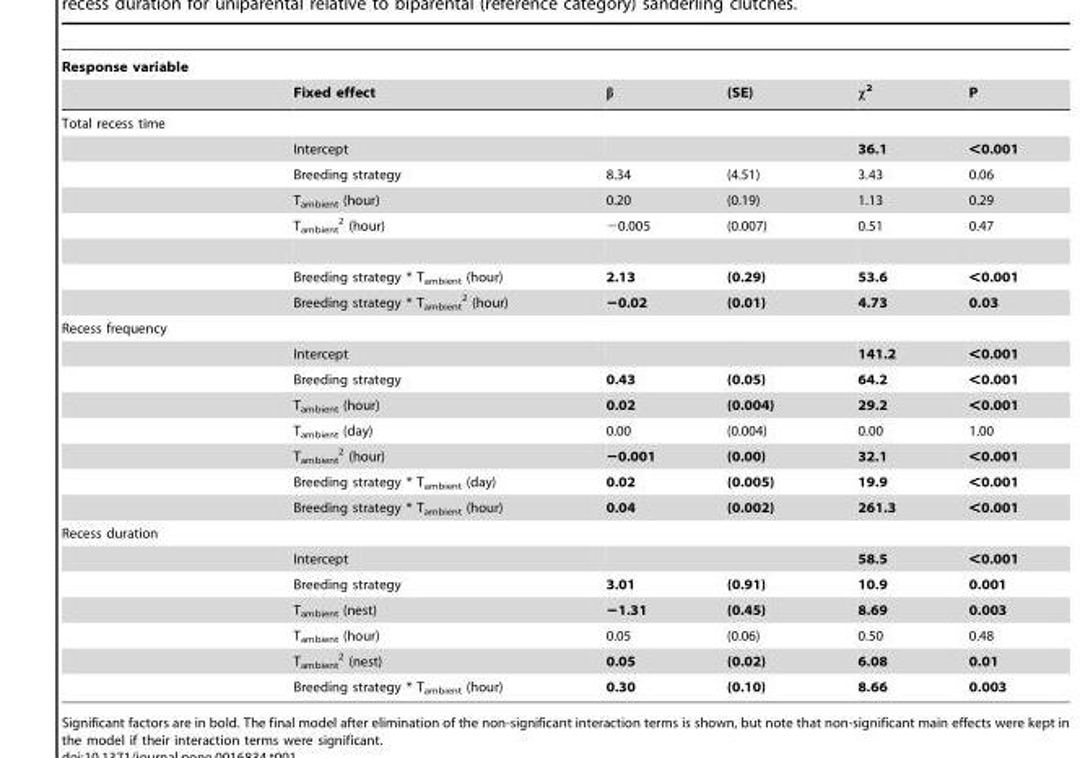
<table><thead><tr><td rowspan="2">Response variable</td><td rowspan="2">Fixed effect</td><td rowspan="2">β</td><td rowspan="2">(SE)</td><td rowspan="2">χ<sup>2</sup></td><td rowspan="2">P</td></tr><tr></tr></thead><tbody><tr><td colspan="6">Total recess time</td></tr><tr><td></td><td>Intercept</td><td></td><td></td><td>36.1</td><td>&lt;0.001</td></tr><tr><td></td><td>Breeding strategy</td><td>8.34</td><td>(4.51)</td><td>3.43</td><td>0.06</td></tr><tr><td></td><td>T<sub>ambient</sub> (hour)</td><td>0.20</td><td>(0.19)</td><td>1.13</td><td>0.29</td></tr><tr><td></td><td>T<sub>ambient</sub> <sup>2</sup> (hour)</td><td>−0.005</td><td>(0.007)</td><td>0.51</td><td>0.47</td></tr><tr><td></td><td>Breeding strategy * T<sub>ambient</sub> (hour)</td><td>2.13</td><td>(0.29)</td><td>53.6</td><td>&lt;0.001</td></tr><tr><td></td><td>Breeding strategy * T<sub>ambient</sub> <sup>2</sup> (hour)</td><td>−0.02</td><td>(0.01)</td><td>4.73</td><td>0.03</td></tr><tr><td colspan="6">Recess frequency</td></tr><tr><td></td><td>Intercept</td><td></td><td></td><td>141.2</td><td>&lt;0.001</td></tr><tr><td></td><td>Breeding strategy</td><td>0.43</td><td>(0.05)</td><td>64.2</td><td>&lt;0.001</td></tr><tr><td></td><td>T<sub>ambient</sub> (hour)</td><td>0.02</td><td>(0.004)</td><td>29.2</td><td>&lt;0.001</td></tr><tr><td></td><td>T<sub>ambient</sub> (day)</td><td>0.00</td><td>(0.004)</td><td>0.00</td><td>1.00</td></tr><tr><td></td><td>T<sub>ambient</sub> <sup>2</sup> (hour)</td><td>−0.001</td><td>(0.00)</td><td>32.1</td><td>&lt;0.001</td></tr><tr><td></td><td>Breeding strategy * T<sub>ambient</sub> (day)</td><td>0.02</td><td>(0.005)</td><td>19.9</td><td>&lt;0.001</td></tr><tr><td></td><td>Breeding strategy * T<sub>ambient</sub> (hour)</td><td>0.04</td><td>(0.002)</td><td>261.3</td><td>&lt;0.001</td></tr><tr><td colspan="6">Recess duration</td></tr><tr><td></td><td>Intercept</td><td></td><td></td><td>58.5</td><td>&lt;0.001</td></tr><tr><td></td><td>Breeding strategy</td><td>3.01</td><td>(0.91)</td><td>10.9</td><td>0.001</td></tr><tr><td></td><td>T<sub>ambient</sub> (nest)</td><td>−1.31</td><td>(0.45)</td><td>8.69</td><td>0.003</td></tr><tr><td></td><td>T<sub>ambient</sub> (hour)</td><td>0.05</td><td>(0.06)</td><td>0.50</td><td>0.48</td></tr><tr><td></td><td>T<sub>ambient</sub> <sup>2</sup> (nest)</td><td>0.05</td><td>(0.02)</td><td>6.08</td><td>0.01</td></tr><tr><td></td><td>Breeding strategy * T<sub>ambient</sub> (hour)</td><td>0.30</td><td>(0.10)</td><td>8.66</td><td>0.003</td></tr></tbody></table>